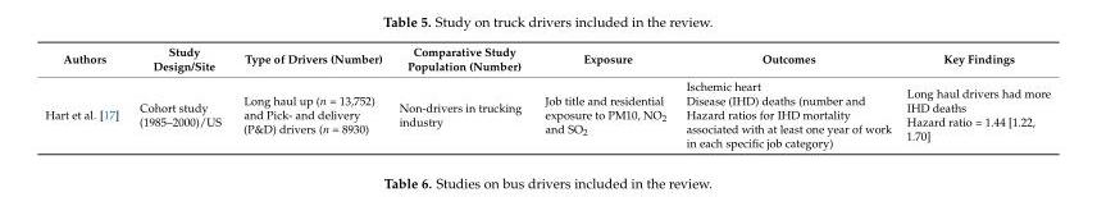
<table><thead><tr><td>Authors</td><td>Study Design/Site</td><td>Type of Drivers (Number)</td><td>Comparative Study Population (Number)</td><td>Exposure</td><td>Outcomes</td><td>Key Findings</td></tr></thead><tbody><tr><td>Hart et al. [17]</td><td>Cohort study (1985–2000)/US</td><td>Long haul up (n = 13,752) and Pick- and delivery (P&amp;D) drivers (n = 8930)</td><td>Non-drivers in trucking industry</td><td>Job title and residential exposure to PM10, NO<sub>2</sub> and SO<sub>2</sub></td><td>Ischemic heart Disease (IHD) deaths (number and Hazard ratios for IHD mortality associated with at least one year of work in each specific job category)</td><td>Long haul drivers had more IHD deaths Hazard ratio = 1.44 [1.22, 1.70]</td></tr></tbody></table>